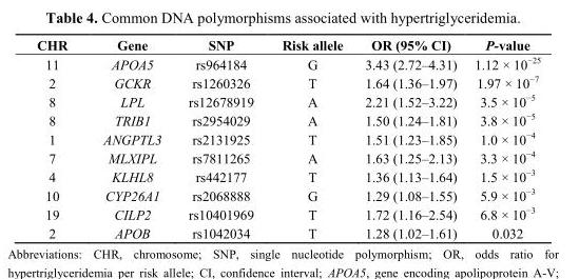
<table><thead><tr><td>CHR</td><td>Gene</td><td>SNP</td><td>Risk allele</td><td>OR (95% CI)</td><td>P-value</td></tr></thead><tbody><tr><td>11</td><td>APOA5</td><td>rs964184</td><td>G</td><td>3.43 (2.72–4.31)</td><td>1.12 × 10<sup>−25</sup></td></tr><tr><td>2</td><td>GCKR</td><td>rs1260326</td><td>T</td><td>1.64 (1.36–1.97)</td><td>1.97 × 10<sup>−7</sup></td></tr><tr><td>8</td><td>LPL</td><td>rs12678919</td><td>A</td><td>2.21 (1.52–3.22)</td><td>3.5 × 10<sup>−5</sup></td></tr><tr><td>8</td><td>TRIB1</td><td>rs2954029</td><td>A</td><td>1.50 (1.24–1.81)</td><td>3.8 × 10<sup>−5</sup></td></tr><tr><td>1</td><td>ANGPTL3</td><td>rs2131925</td><td>T</td><td>1.51 (1.23–1.85)</td><td>1.0 × 10<sup>−4</sup></td></tr><tr><td>7</td><td>MLXIPL</td><td>rs7811265</td><td>A</td><td>1.63 (1.25–2.13)</td><td>3.3 × 10<sup>−4</sup></td></tr><tr><td>4</td><td>KLHL8</td><td>rs442177</td><td>T</td><td>1.36 (1.13–1.64)</td><td>1.5 × 10<sup>−3</sup></td></tr><tr><td>10</td><td>CYP26A1</td><td>rs2068888</td><td>G</td><td>1.29 (1.08–1.55)</td><td>5.9 × 10<sup>−3</sup></td></tr><tr><td>19</td><td>CILP2</td><td>rs10401969</td><td>T</td><td>1.72 (1.16–2.54)</td><td>6.8 × 10<sup>−3</sup></td></tr><tr><td>2</td><td>APOB</td><td>rs1042034</td><td>T</td><td>1.28 (1.02–1.61)</td><td>0.032</td></tr></tbody></table>